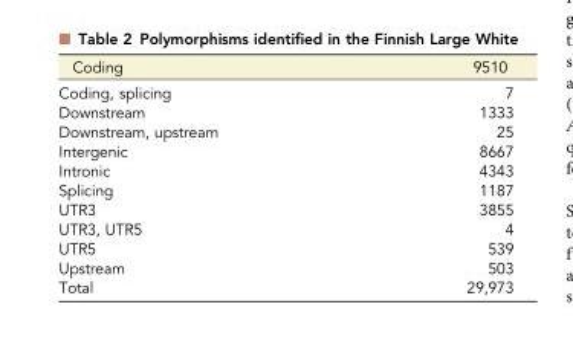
<table><thead><tr><td>Coding</td><td>9510</td></tr></thead><tbody><tr><td>Coding, splicing</td><td>7</td></tr><tr><td>Downstream</td><td>1333</td></tr><tr><td>Downstream, upstream</td><td>25</td></tr><tr><td>Intergenic</td><td>8667</td></tr><tr><td>Intronic</td><td>4343</td></tr><tr><td>Splicing</td><td>1187</td></tr><tr><td>UTR3</td><td>3855</td></tr><tr><td>UTR3, UTR5</td><td>4</td></tr><tr><td>UTR5</td><td>539</td></tr><tr><td>Upstream</td><td>503</td></tr><tr><td>Total</td><td>29,973</td></tr></tbody></table>